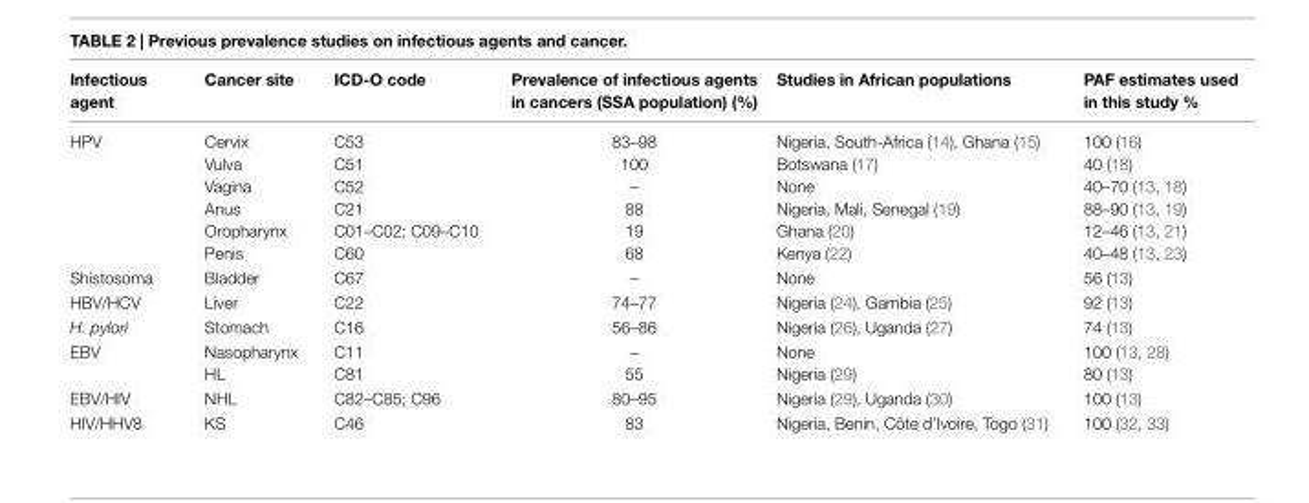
<table><thead><tr><td>infectious agent</td><td>cancer site</td><td>icD-O code</td><td>Prevalence of infectious agents in cancers (ssa population) (%)</td><td>studies in african populations</td><td>PaF estimates used in this study %</td></tr></thead><tbody><tr><td rowspan="6">HPV</td><td>Cervix</td><td>C53</td><td>83–98</td><td>Nigeria, South-Africa (14), Ghana (15)</td><td>100 (16)</td></tr><tr><td>Vulva</td><td>C51</td><td>100</td><td>Botswana (17)</td><td>40 (18)</td></tr><tr><td>Vagina</td><td>C52</td><td>–</td><td>None</td><td>40–70 (13, 18)</td></tr><tr><td>Anus</td><td>C21</td><td>88</td><td>Nigeria, Mali, Senegal (19)</td><td>88–90 (13, 19)</td></tr><tr><td>Oropharynx</td><td>C01–C02; C09–C10</td><td>19</td><td>Ghana (20)</td><td>12–46 (13, 21)</td></tr><tr><td>Penis</td><td>C60</td><td>68</td><td>Kenya (22)</td><td>40–48 (13, 23)</td></tr><tr><td>Shistosoma</td><td>Bladder</td><td>C67</td><td>–</td><td>None</td><td>56 (13)</td></tr><tr><td>HBV/HCV</td><td>Liver</td><td>C22</td><td>74–77</td><td>Nigeria (24), Gambia (25)</td><td>92 (13)</td></tr><tr><td>H. pylori</td><td>Stomach</td><td>C16</td><td>56–86</td><td>Nigeria (26), Uganda (27)</td><td>74 (13)</td></tr><tr><td rowspan="2">EBV</td><td>Nasopharynx</td><td>C11</td><td>–</td><td>None</td><td>100 (13, 28)</td></tr><tr><td>HL</td><td>C81</td><td>55</td><td>Nigeria (29)</td><td>80 (13)</td></tr><tr><td>EBV/HIV</td><td>NHL</td><td>C82–C85; C96</td><td>80–95</td><td>Nigeria (29), Uganda (30)</td><td>100 (13)</td></tr><tr><td>HIV/HHV8</td><td>KS</td><td>C46</td><td>83</td><td>Nigeria, Benin, Côte d’Ivoire, Togo (31)</td><td>100 (32, 33)</td></tr></tbody></table>